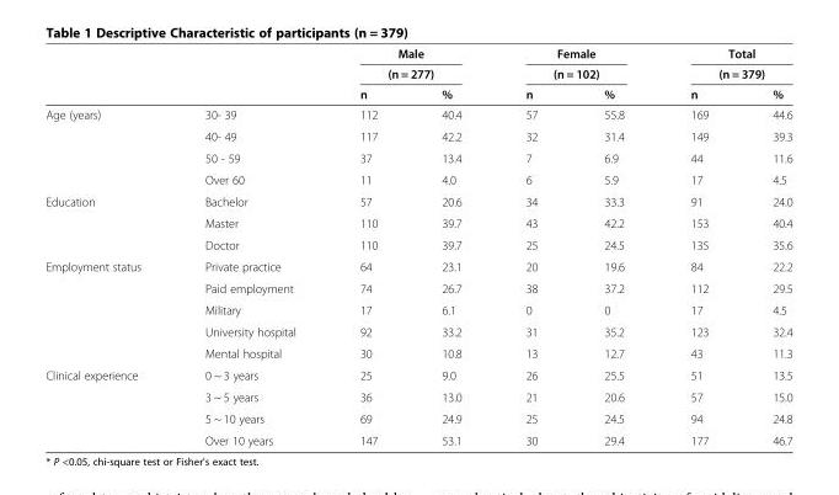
<table><thead><tr><td rowspan="3"></td><td rowspan="3"></td><td rowspan="2" colspan="2">Male (n = 277)</td><td rowspan="2" colspan="2">Female (n = 102)</td><td rowspan="2" colspan="2">Total (n = 379)</td></tr><tr></tr><tr><td>n</td><td>%</td><td>n</td><td>%</td><td>n</td><td>%</td></tr></thead><tbody><tr><td rowspan="4">Age (years)</td><td>30- 39</td><td>112</td><td>40.4</td><td>57</td><td>55.8</td><td>169</td><td>44.6</td></tr><tr><td>40- 49</td><td>117</td><td>42.2</td><td>32</td><td>31.4</td><td>149</td><td>39.3</td></tr><tr><td>50 - 59</td><td>37</td><td>13.4</td><td>7</td><td>6.9</td><td>44</td><td>11.6</td></tr><tr><td>Over 60</td><td>11</td><td>4.0</td><td>6</td><td>5.9</td><td>17</td><td>4.5</td></tr><tr><td rowspan="3">Education</td><td>Bachelor</td><td>57</td><td>20.6</td><td>34</td><td>33.3</td><td>91</td><td>24.0</td></tr><tr><td>Master</td><td>110</td><td>39.7</td><td>43</td><td>42.2</td><td>153</td><td>40.4</td></tr><tr><td>Doctor</td><td>110</td><td>39.7</td><td>25</td><td>24.5</td><td>135</td><td>35.6</td></tr><tr><td rowspan="5">Employment status</td><td>Private practice</td><td>64</td><td>23.1</td><td>20</td><td>19.6</td><td>84</td><td>22.2</td></tr><tr><td>Paid employment</td><td>74</td><td>26.7</td><td>38</td><td>37.2</td><td>112</td><td>29.5</td></tr><tr><td>Military</td><td>17</td><td>6.1</td><td>0</td><td>0</td><td>17</td><td>4.5</td></tr><tr><td>University hospital</td><td>92</td><td>33.2</td><td>31</td><td>35.2</td><td>123</td><td>32.4</td></tr><tr><td>Mental hospital</td><td>30</td><td>10.8</td><td>13</td><td>12.7</td><td>43</td><td>11.3</td></tr><tr><td rowspan="4">Clinical experience</td><td>0 ~ 3 years</td><td>25</td><td>9.0</td><td>26</td><td>25.5</td><td>51</td><td>13.5</td></tr><tr><td>3 ~ 5 years</td><td>36</td><td>13.0</td><td>21</td><td>20.6</td><td>57</td><td>15.0</td></tr><tr><td>5 ~ 10 years</td><td>69</td><td>24.9</td><td>25</td><td>24.5</td><td>94</td><td>24.8</td></tr><tr><td>Over 10 years</td><td>147</td><td>53.1</td><td>30</td><td>29.4</td><td>177</td><td>46.7</td></tr></tbody></table>